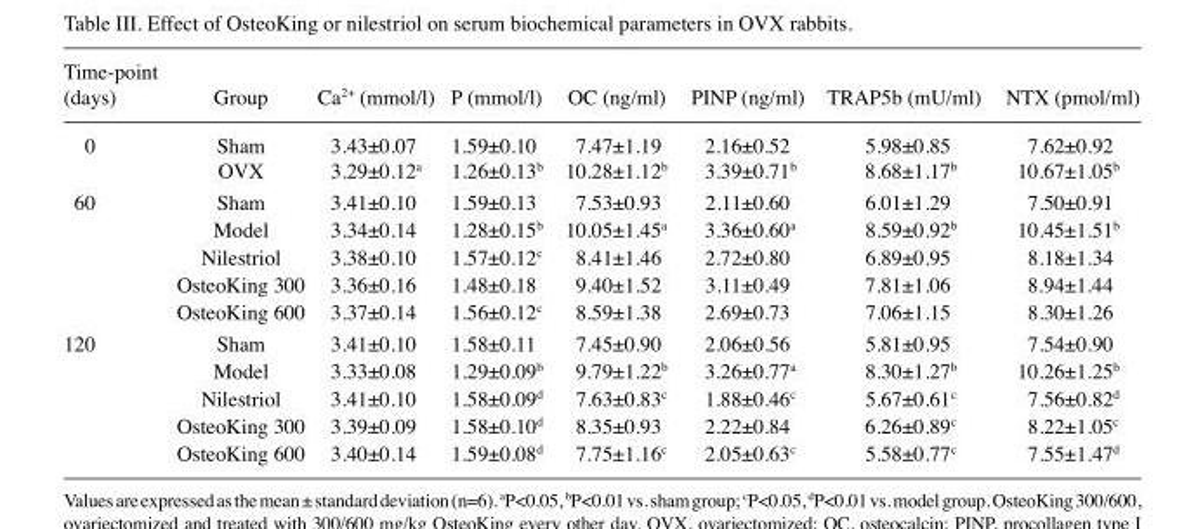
<table><thead><tr><td>Time-point (days)</td><td>Group</td><td>Ca<sup>2+</sup> (mmol/l)</td><td>P (mmol/l)</td><td>OC (ng/ml)</td><td>PⅠNP (ng/ml)</td><td>TRAP5b (mU/ml)</td><td>NTX (pmol/ml)</td></tr></thead><tbody><tr><td rowspan="2">0</td><td>Sham</td><td>3.43±0.07</td><td>1.59±0.10</td><td>7.47±1.19</td><td>2.16±0.52</td><td>5.98±0.85</td><td>7.62±0.92</td></tr><tr><td>OVX</td><td>3.29±0.12<sup>a</sup></td><td>1.26±0.13<sup>b</sup></td><td>10.28±1.12<sup>b</sup></td><td>3.39±0.71<sup>b</sup></td><td>8.68±1.17<sup>b</sup></td><td>10.67±1.05<sup>b</sup></td></tr><tr><td rowspan="5">60</td><td>Sham</td><td>3.41±0.10</td><td>1.59±0.13</td><td>7.53±0.93</td><td>2.11±0.60</td><td>6.01±1.29</td><td>7.50±0.91</td></tr><tr><td>Model</td><td>3.34±0.14</td><td>1.28±0.15<sup>b</sup></td><td>10.05±1.45<sup>a</sup></td><td>3.36±0.60<sup>a</sup></td><td>8.59±0.92<sup>b</sup></td><td>10.45±1.51<sup>b</sup></td></tr><tr><td>Nilestriol</td><td>3.38±0.10</td><td>1.57±0.12<sup>c</sup></td><td>8.41±1.46</td><td>2.72±0.80</td><td>6.89±0.95</td><td>8.18±1.34</td></tr><tr><td>OsteoKing 300</td><td>3.36±0.16</td><td>1.48±0.18</td><td>9.40±1.52</td><td>3.11±0.49</td><td>7.81±1.06</td><td>8.94±1.44</td></tr><tr><td>OsteoKing 600</td><td>3.37±0.14</td><td>1.56±0.12<sup>c</sup></td><td>8.59±1.38</td><td>2.69±0.73</td><td>7.06±1.15</td><td>8.30±1.26</td></tr><tr><td rowspan="5">120</td><td>Sham</td><td>3.41±0.10</td><td>1.58±0.11</td><td>7.45±0.90</td><td>2.06±0.56</td><td>5.81±0.95</td><td>7.54±0.90</td></tr><tr><td>Model</td><td>3.33±0.08</td><td>1.29±0.09<sup>b</sup></td><td>9.79±1.22<sup>b</sup></td><td>3.26±0.77<sup>a</sup></td><td>8.30±1.27<sup>b</sup></td><td>10.26±1.25<sup>b</sup></td></tr><tr><td>Nilestriol</td><td>3.41±0.10</td><td>1.58±0.09<sup>d</sup></td><td>7.63±0.83<sup>c</sup></td><td>1.88±0.46<sup>c</sup></td><td>5.67±0.61<sup>c</sup></td><td>7.56±0.82<sup>d</sup></td></tr><tr><td>OsteoKing 300</td><td>3.39±0.09</td><td>1.58±0.10<sup>d</sup></td><td>8.35±0.93</td><td>2.22±0.84</td><td>6.26±0.89<sup>c</sup></td><td>8.22±1.05<sup>c</sup></td></tr><tr><td>OsteoKing 600</td><td>3.40±0.14</td><td>1.59±0.08<sup>d</sup></td><td>7.75±1.16<sup>c</sup></td><td>2.05±0.63<sup>c</sup></td><td>5.58±0.77<sup>c</sup></td><td>7.55±1.47<sup>d</sup></td></tr></tbody></table>